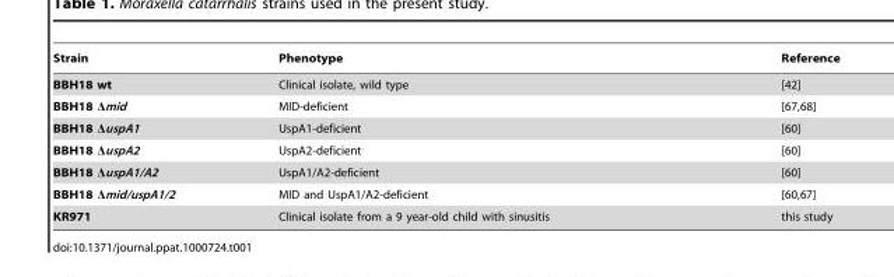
<table><thead><tr><td>Strain</td><td>Phenotype</td><td>Reference</td></tr></thead><tbody><tr><td>BBH18 wt</td><td>Clinical isolate, wild type</td><td>[42]</td></tr><tr><td>BBH18 Δmid</td><td>MID-deficient</td><td>[67,68]</td></tr><tr><td>BBH18 ΔuspA1</td><td>UspA1-deficient</td><td>[60]</td></tr><tr><td>BBH18 ΔuspA2</td><td>UspA2-deficient</td><td>[60]</td></tr><tr><td>BBH18 ΔuspA1/A2</td><td>UspA1/A2-deficient</td><td>[60]</td></tr><tr><td>BBH18 Δmid/uspA1/2</td><td>MID and UspA1/A2-deficient</td><td>[60,67]</td></tr><tr><td>KR971</td><td>Clinical isolate from a 9 year-old child with sinusitis</td><td>this study</td></tr></tbody></table>